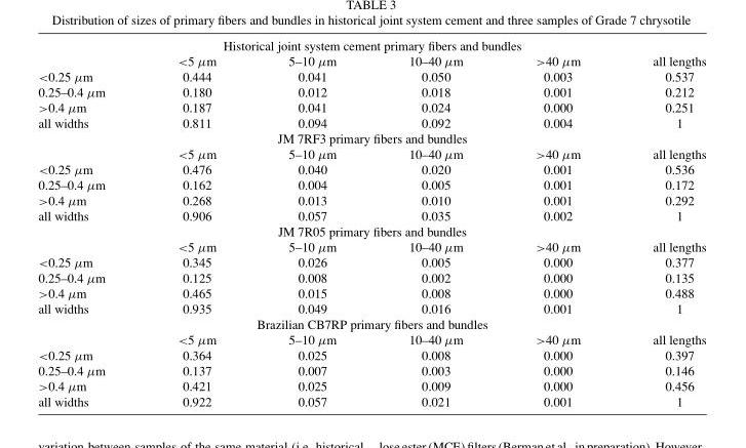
<table><tbody><tr><td colspan="6">Historical joint system cement primary fibers and bundles</td></tr><tr><td></td><td>&lt;5 µm</td><td>5–10 µm</td><td>10–40 µm</td><td>&gt;40 µm</td><td>all lengths</td></tr><tr><td>&lt;0.25 µm</td><td>0.444</td><td>0.041</td><td>0.050</td><td>0.003</td><td>0.537</td></tr><tr><td>0.25–0.4 µm</td><td>0.180</td><td>0.012</td><td>0.018</td><td>0.001</td><td>0.212</td></tr><tr><td>&gt;0.4 µm</td><td>0.187</td><td>0.041</td><td>0.024</td><td>0.000</td><td>0.251</td></tr><tr><td>all widths</td><td>0.811</td><td>0.094</td><td>0.092</td><td>0.004</td><td>1</td></tr><tr><td colspan="6">JM 7RF3 primary fibers and bundles</td></tr><tr><td></td><td>&lt;5 µm</td><td>5–10 µm</td><td>10–40 µm</td><td>&gt;40 µm</td><td>all lengths</td></tr><tr><td>&lt;0.25 µm</td><td>0.476</td><td>0.040</td><td>0.020</td><td>0.001</td><td>0.536</td></tr><tr><td>0.25–0.4 µm</td><td>0.162</td><td>0.004</td><td>0.005</td><td>0.001</td><td>0.172</td></tr><tr><td>&gt;0.4 µm</td><td>0.268</td><td>0.013</td><td>0.010</td><td>0.001</td><td>0.292</td></tr><tr><td>all widths</td><td>0.906</td><td>0.057</td><td>0.035</td><td>0.002</td><td>1</td></tr><tr><td colspan="6">JM 7R05 primary fibers and bundles</td></tr><tr><td></td><td>&lt;5 µm</td><td>5–10 µm</td><td>10–40 µm</td><td>&gt;40 µm</td><td>all lengths</td></tr><tr><td>&lt;0.25 µm</td><td>0.345</td><td>0.026</td><td>0.005</td><td>0.000</td><td>0.377</td></tr><tr><td>0.25–0.4 µm</td><td>0.125</td><td>0.008</td><td>0.002</td><td>0.000</td><td>0.135</td></tr><tr><td>&gt;0.4 µm</td><td>0.465</td><td>0.015</td><td>0.008</td><td>0.000</td><td>0.488</td></tr><tr><td>all widths</td><td>0.935</td><td>0.049</td><td>0.016</td><td>0.001</td><td>1</td></tr><tr><td colspan="6">Brazilian CB7RP primary fibers and bundles</td></tr><tr><td></td><td>&lt;5 µm</td><td>5–10 µm</td><td>10–40 µm</td><td>&gt;40 µm</td><td>all lengths</td></tr><tr><td>&lt;0.25 µm</td><td>0.364</td><td>0.025</td><td>0.008</td><td>0.000</td><td>0.397</td></tr><tr><td>0.25–0.4 µm</td><td>0.137</td><td>0.007</td><td>0.003</td><td>0.000</td><td>0.146</td></tr><tr><td>&gt;0.4 µm</td><td>0.421</td><td>0.025</td><td>0.009</td><td>0.000</td><td>0.456</td></tr><tr><td>all widths</td><td>0.922</td><td>0.057</td><td>0.021</td><td>0.001</td><td>1</td></tr></tbody></table>